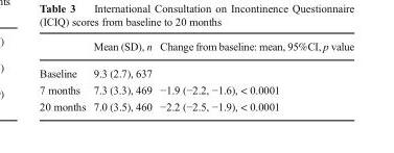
<table><thead><tr><td></td><td>Mean (SD), n</td><td>Change from baseline: mean, 95%CI, p value</td></tr></thead><tbody><tr><td>Baseline</td><td>9.3 (2.7), 637</td><td></td></tr><tr><td>7 months</td><td>7.3 (3.3), 469</td><td>−1.9 (−2.2, −1.6), &lt; 0.0001</td></tr><tr><td>20 months</td><td>7.0 (3.5), 460</td><td>−2.2 (−2.5, −1.9), &lt; 0.0001</td></tr></tbody></table>